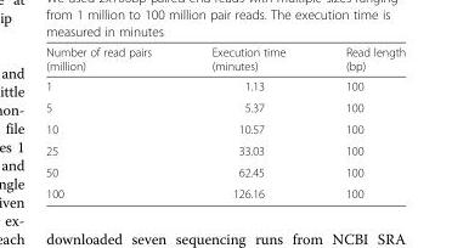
<table><thead><tr><td>Number of read pairs (million)</td><td>Execution time (minutes)</td><td>Read length (bp)</td></tr></thead><tbody><tr><td>1</td><td>1.13</td><td>100</td></tr><tr><td>5</td><td>5.37</td><td>100</td></tr><tr><td>10</td><td>10.57</td><td>100</td></tr><tr><td>25</td><td>33.03</td><td>100</td></tr><tr><td>50</td><td>62.45</td><td>100</td></tr><tr><td>100</td><td>126.16</td><td>100</td></tr></tbody></table>